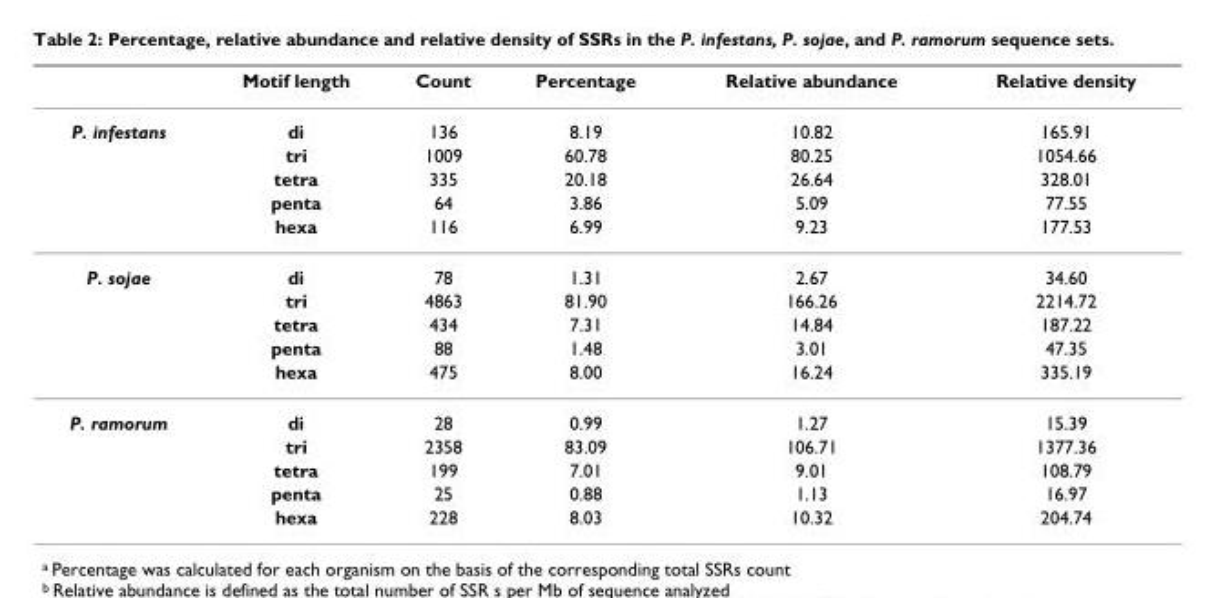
<table><thead><tr><td></td><td>Motif length</td><td>Count</td><td>Percentage</td><td>Relative abundance</td><td>Relative density</td></tr></thead><tbody><tr><td rowspan="5">P. infestans</td><td>di</td><td>136</td><td>8.19</td><td>10.82</td><td>165.91</td></tr><tr><td>tri</td><td>1009</td><td>60.78</td><td>80.25</td><td>1054.66</td></tr><tr><td>tetra</td><td>335</td><td>20.18</td><td>26.64</td><td>328.01</td></tr><tr><td>penta</td><td>64</td><td>3.86</td><td>5.09</td><td>77.55</td></tr><tr><td>hexa</td><td>116</td><td>6.99</td><td>9.23</td><td>177.53</td></tr><tr><td rowspan="5">P. sojae</td><td>di</td><td>78</td><td>1.31</td><td>2.67</td><td>34.60</td></tr><tr><td>tri</td><td>4863</td><td>81.90</td><td>166.26</td><td>2214.72</td></tr><tr><td>tetra</td><td>434</td><td>7.31</td><td>14.84</td><td>187.22</td></tr><tr><td>penta</td><td>88</td><td>1.48</td><td>3.01</td><td>47.35</td></tr><tr><td>hexa</td><td>475</td><td>8.00</td><td>16.24</td><td>335.19</td></tr><tr><td rowspan="5">P. ramorum</td><td>di</td><td>28</td><td>0.99</td><td>1.27</td><td>15.39</td></tr><tr><td>tri</td><td>2358</td><td>83.09</td><td>106.71</td><td>1377.36</td></tr><tr><td>tetra</td><td>199</td><td>7.01</td><td>9.01</td><td>108.79</td></tr><tr><td>penta</td><td>25</td><td>0.88</td><td>1.13</td><td>16.97</td></tr><tr><td>hexa</td><td>228</td><td>8.03</td><td>10.32</td><td>204.74</td></tr></tbody></table>